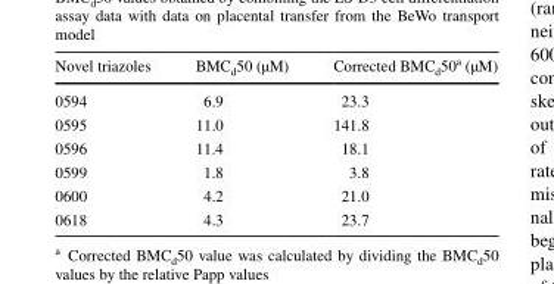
<table><thead><tr><td>Novel triazoles</td><td>BMC<sub>d</sub>50 (µM)</td><td>Corrected BMC<sub>d</sub>50<sup>a</sup> (µM)</td></tr></thead><tbody><tr><td>0594</td><td>6.9</td><td>23.3</td></tr><tr><td>0595</td><td>11.0</td><td>141.8</td></tr><tr><td>0596</td><td>11.4</td><td>18.1</td></tr><tr><td>0599</td><td>1.8</td><td>3.8</td></tr><tr><td>0600</td><td>4.2</td><td>21.0</td></tr><tr><td>0618</td><td>4.3</td><td>23.7</td></tr></tbody></table>